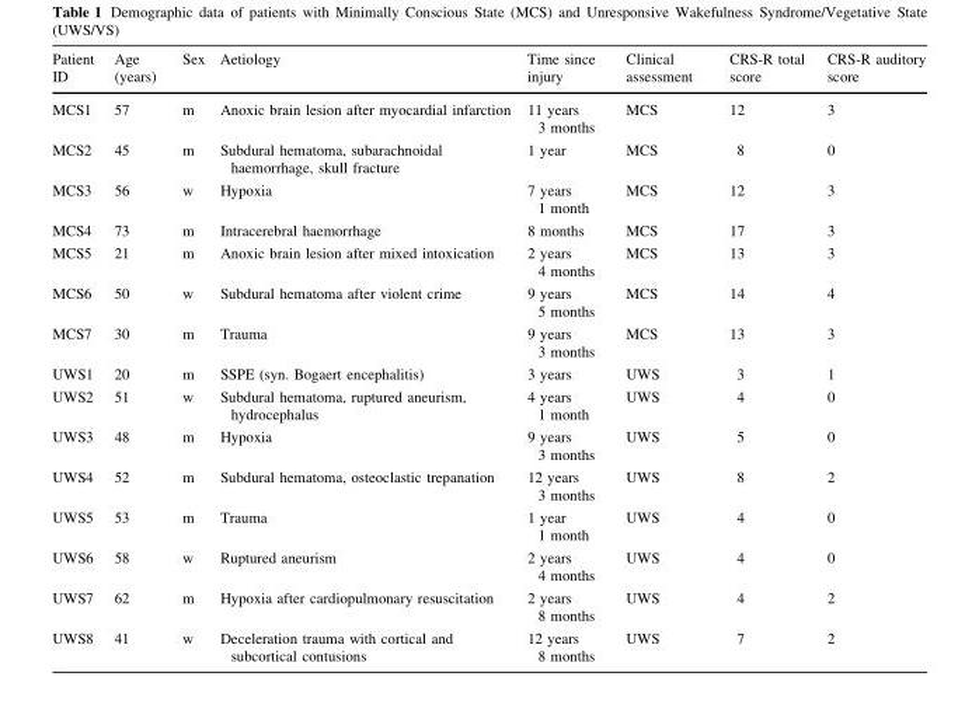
<table><thead><tr><td>Patient ID</td><td>Age (years)</td><td>Sex</td><td>Aetiology</td><td>Time since injury</td><td>Clinical assessment</td><td>CRS-R total score</td><td>CRS-R auditory score</td></tr></thead><tbody><tr><td>MCS1</td><td>57</td><td>m</td><td>Anoxic brain lesion after myocardial infarction</td><td>11 years 3 months</td><td>MCS</td><td>12</td><td>3</td></tr><tr><td>MCS2</td><td>45</td><td>m</td><td>Subdural hematoma, subarachnoidal haemorrhage, skull fracture</td><td>1 year</td><td>MCS</td><td>8</td><td>0</td></tr><tr><td>MCS3</td><td>56</td><td>w</td><td>Hypoxia</td><td>7 years 1 month</td><td>MCS</td><td>12</td><td>3</td></tr><tr><td>MCS4</td><td>73</td><td>m</td><td>Intracerebral haemorrhage</td><td>8 months</td><td>MCS</td><td>17</td><td>3</td></tr><tr><td>MCS5</td><td>21</td><td>m</td><td>Anoxic brain lesion after mixed intoxication</td><td>2 years 4 months</td><td>MCS</td><td>13</td><td>3</td></tr><tr><td>MCS6</td><td>50</td><td>w</td><td>Subdural hematoma after violent crime</td><td>9 years 5 months</td><td>MCS</td><td>14</td><td>4</td></tr><tr><td>MCS7</td><td>30</td><td>m</td><td>Trauma</td><td>9 years 3 months</td><td>MCS</td><td>13</td><td>3</td></tr><tr><td>UWS1</td><td>20</td><td>m</td><td>SSPE (syn. Bogaert encephalitis)</td><td>3 years</td><td>UWS</td><td>3</td><td>1</td></tr><tr><td>UWS2</td><td>51</td><td>w</td><td>Subdural hematoma, ruptured aneurism, hydrocephalus</td><td>4 years 1 month</td><td>UWS</td><td>4</td><td>0</td></tr><tr><td>UWS3</td><td>48</td><td>m</td><td>Hypoxia</td><td>9 years 3 months</td><td>UWS</td><td>5</td><td>0</td></tr><tr><td>UWS4</td><td>52</td><td>m</td><td>Subdural hematoma, osteoclastic trepanation</td><td>12 years 3 months</td><td>UWS</td><td>8</td><td>2</td></tr><tr><td>UWS5</td><td>53</td><td>m</td><td>Trauma</td><td>1 year 1 month</td><td>UWS</td><td>4</td><td>0</td></tr><tr><td>UWS6</td><td>58</td><td>w</td><td>Ruptured aneurism</td><td>2 years 4 months</td><td>UWS</td><td>4</td><td>0</td></tr><tr><td>UWS7</td><td>62</td><td>m</td><td>Hypoxia after cardiopulmonary resuscitation</td><td>2 years 8 months</td><td>UWS</td><td>4</td><td>2</td></tr><tr><td>UWS8</td><td>41</td><td>w</td><td>Deceleration trauma with cortical and subcortical contusions</td><td>12 years 8 months</td><td>UWS</td><td>7</td><td>2</td></tr></tbody></table>